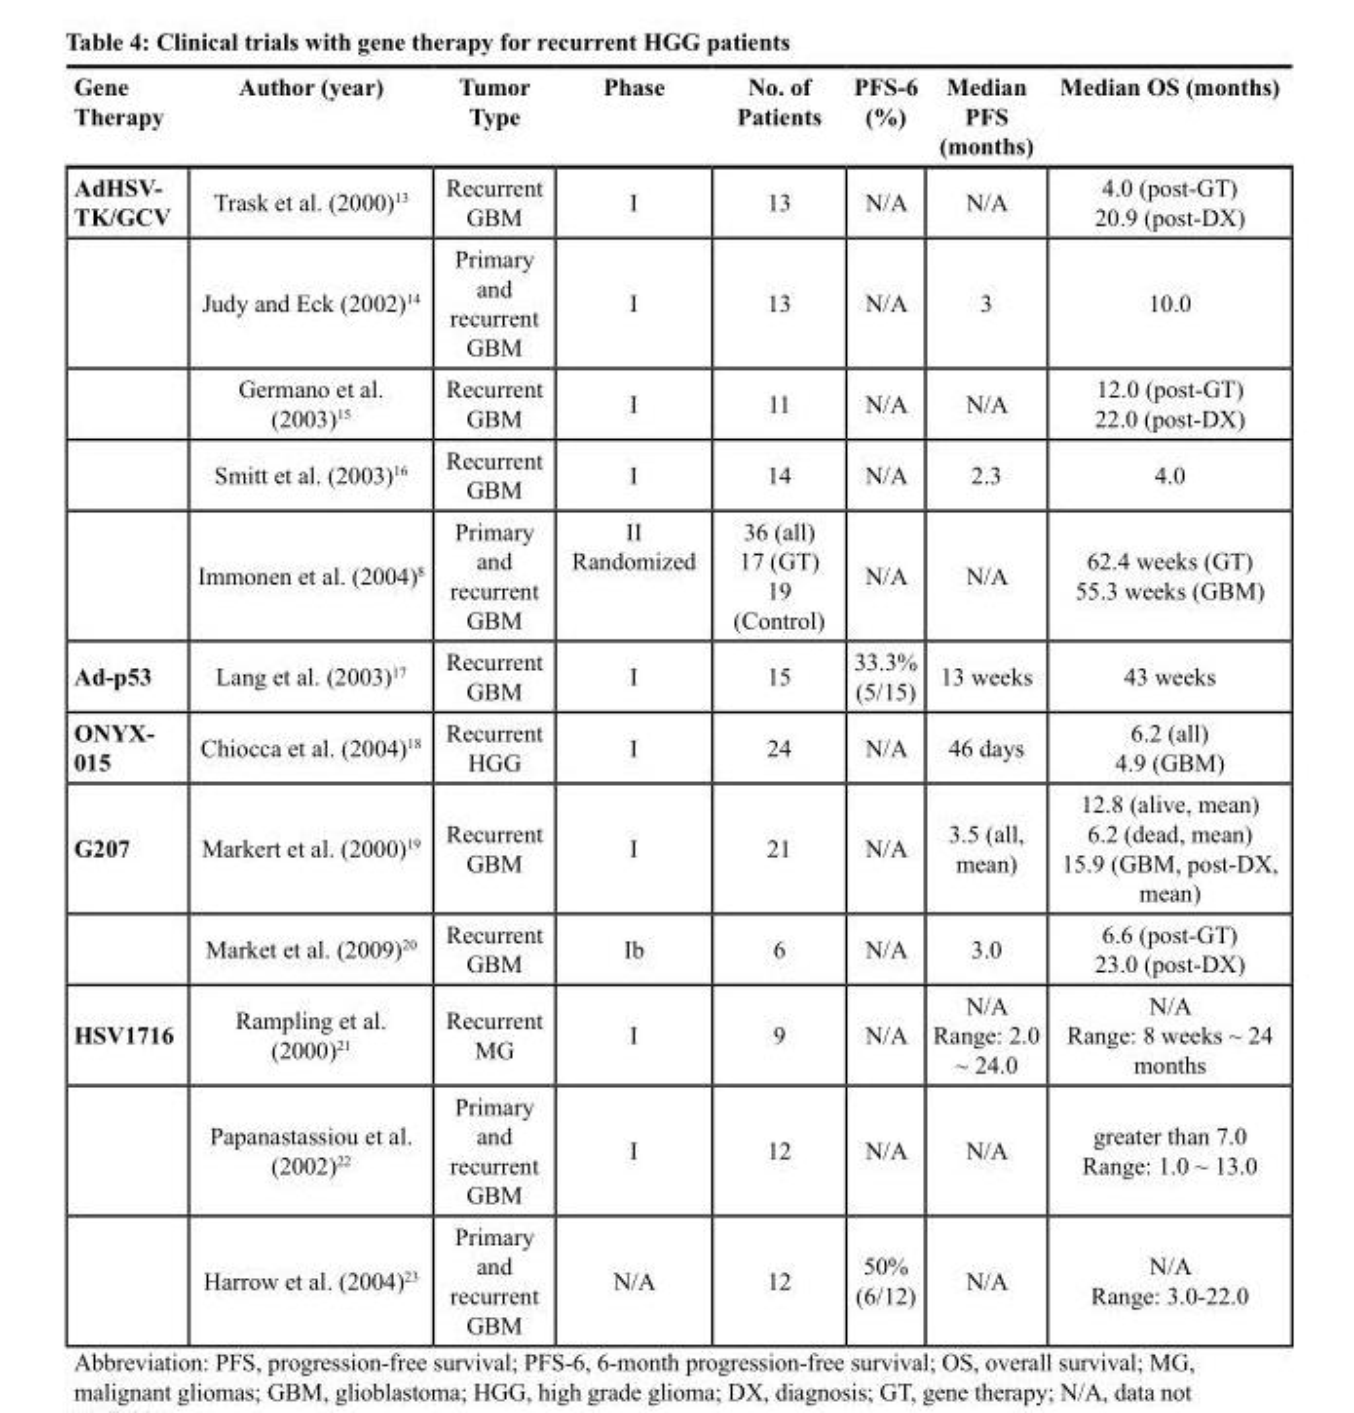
<table><thead><tr><td>Gene Therapy</td><td>Author (year)</td><td>Tumor Type</td><td>Phase</td><td>No. of Patients</td><td>PFS-6 (%)</td><td>Median PFS (months)</td><td>Median OS (months)</td></tr></thead><tbody><tr><td rowspan="5">AdHSV- TK/GCV</td><td>Trask et al. (2000)<sup>13</sup></td><td>Recurrent GBM</td><td>I</td><td>13</td><td>N/A</td><td>N/A</td><td>4.0 (post-GT) 20.9 (post-DX)</td></tr><tr><td>Judy and Eck (2002)<sup>14</sup></td><td>Primary and recurrent GBM</td><td>I</td><td>13</td><td>N/A</td><td>3</td><td>10.0</td></tr><tr><td>Germano et al. (2003)<sup>15</sup></td><td>Recurrent GBM</td><td>I</td><td>11</td><td>N/A</td><td>N/A</td><td>12.0 (post-GT) 22.0 (post-DX)</td></tr><tr><td>Smitt et al. (2003)<sup>16</sup></td><td>Recurrent GBM</td><td>I</td><td>14</td><td>N/A</td><td>2.3</td><td>4.0</td></tr><tr><td>Immonen et al. (2004)<sup>8</sup></td><td>Primary and recurrent GBM</td><td>II Randomized</td><td>36 (all) 17 (GT) 19 (Control)</td><td>N/A</td><td>N/A</td><td>62.4 weeks (GT) 55.3 weeks (GBM)</td></tr><tr><td>Ad-p53</td><td>Lang et al. (2003)<sup>17</sup></td><td>Recurrent GBM</td><td>I</td><td>15</td><td>33.3% (5/15)</td><td>13 weeks</td><td>43 weeks</td></tr><tr><td>ONYX- 015</td><td>Chiocca et al. (2004)<sup>18</sup></td><td>Recurrent HGG</td><td>I</td><td>24</td><td>N/A</td><td>46 days</td><td>6.2 (all) 4.9 (GBM)</td></tr><tr><td rowspan="2">G207</td><td>Markert et al. (2000)<sup>19</sup></td><td>Recurrent GBM</td><td>I</td><td>21</td><td>N/A</td><td>3.5 (all, mean)</td><td>12.8 (alive, mean) 6.2 (dead, mean) 15.9 (GBM, post-DX, mean)</td></tr><tr><td>Market et al. (2009)<sup>20</sup></td><td>Recurrent GBM</td><td>Ib</td><td>6</td><td>N/A</td><td>3.0</td><td>6.6 (post-GT) 23.0 (post-DX)</td></tr><tr><td rowspan="3">HSV1716</td><td>Rampling et al. (2000)<sup>21</sup></td><td>Recurrent MG</td><td>I</td><td>9</td><td>N/A</td><td>N/A Range: 2.0 ~ 24.0</td><td>N/A Range: 8 weeks ~ 24 months</td></tr><tr><td>Papanastassiou et al. (2002)<sup>22</sup></td><td>Primary and recurrent GBM</td><td>I</td><td>12</td><td>N/A</td><td>N/A</td><td>greater than 7.0 Range: 1.0 ~ 13.0</td></tr><tr><td>Harrow et al. (2004)<sup>23</sup></td><td>Primary and recurrent GBM</td><td>N/A</td><td>12</td><td>50% (6/12)</td><td>N/A</td><td>N/A Range: 3.0-22.0</td></tr></tbody></table>